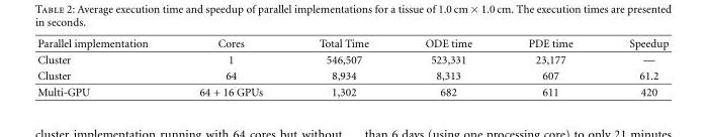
<table><thead><tr><td>Parallel implementation</td><td>Cores</td><td>Total Time</td><td>ODE time</td><td>PDE time</td><td>Speedup</td></tr></thead><tbody><tr><td>Cluster</td><td>1</td><td>546,507</td><td>523,331</td><td>23,177</td><td>—</td></tr><tr><td>Cluster</td><td>64</td><td>8,934</td><td>8,313</td><td>607</td><td>61.2</td></tr><tr><td>Multi-GPU</td><td>64 + 16 GPUs</td><td>1,302</td><td>682</td><td>611</td><td>420</td></tr></tbody></table>